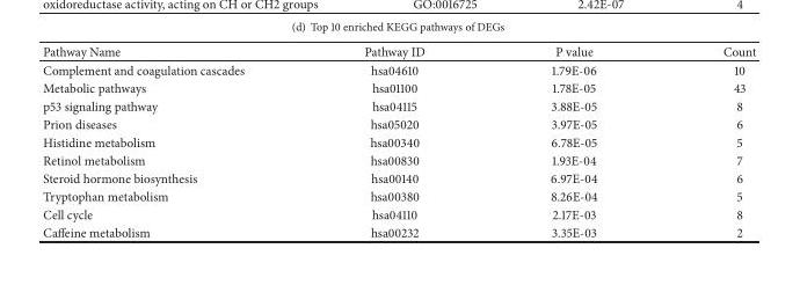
<table><thead><tr><td>Pathway Name</td><td>Pathway ID</td><td>P value</td><td>Count</td></tr></thead><tbody><tr><td>Complement and coagulation cascades</td><td>hsa04610</td><td>1.79E-06</td><td>10</td></tr><tr><td>Metabolic pathways</td><td>hsa01100</td><td>1.78E-05</td><td>43</td></tr><tr><td>p53 signaling pathway</td><td>hsa04115</td><td>3.88E-05</td><td>8</td></tr><tr><td>Prion diseases</td><td>hsa05020</td><td>3.97E-05</td><td>6</td></tr><tr><td>Histidine metabolism</td><td>hsa00340</td><td>6.78E-05</td><td>5</td></tr><tr><td>Retinol metabolism</td><td>hsa00830</td><td>1.93E-04</td><td>7</td></tr><tr><td>Steroid hormone biosynthesis</td><td>hsa00140</td><td>6.97E-04</td><td>6</td></tr><tr><td>Tryptophan metabolism</td><td>hsa00380</td><td>8.26E-04</td><td>5</td></tr><tr><td>Cell cycle</td><td>hsa04110</td><td>2.17E-03</td><td>8</td></tr><tr><td>Caffeine metabolism</td><td>hsa00232</td><td>3.35E-03</td><td>2</td></tr></tbody></table>